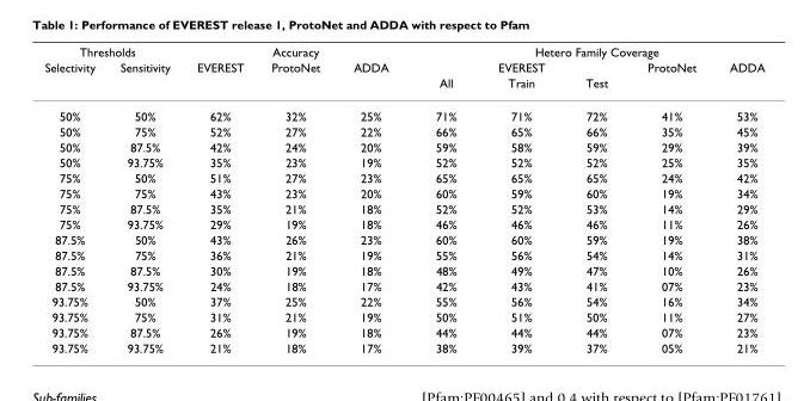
<table><thead><tr><td colspan="2">Thresholds</td><td colspan="3">Accuracy</td><td colspan="5">Hetero Family Coverage</td></tr><tr><td rowspan="2">Selectivity</td><td rowspan="2">Sensitivity</td><td rowspan="2">EVEREST</td><td rowspan="2">ProtoNet</td><td rowspan="2">ADDA</td><td colspan="3">EVEREST</td><td rowspan="2">ProtoNet</td><td rowspan="2">ADDA</td></tr><tr><td>All</td><td>Train</td><td>Test</td></tr></thead><tbody><tr><td>50%</td><td>50%</td><td>62%</td><td>32%</td><td>25%</td><td>71%</td><td>71%</td><td>72%</td><td>41%</td><td>53%</td></tr><tr><td>50%</td><td>75%</td><td>52%</td><td>27%</td><td>22%</td><td>66%</td><td>65%</td><td>66%</td><td>35%</td><td>45%</td></tr><tr><td>50%</td><td>87.5%</td><td>42%</td><td>24%</td><td>20%</td><td>59%</td><td>58%</td><td>59%</td><td>29%</td><td>39%</td></tr><tr><td>50%</td><td>93.75%</td><td>35%</td><td>23%</td><td>19%</td><td>52%</td><td>52%</td><td>52%</td><td>25%</td><td>35%</td></tr><tr><td>75%</td><td>50%</td><td>51%</td><td>27%</td><td>23%</td><td>65%</td><td>65%</td><td>65%</td><td>24%</td><td>42%</td></tr><tr><td>75%</td><td>75%</td><td>43%</td><td>23%</td><td>20%</td><td>60%</td><td>59%</td><td>60%</td><td>19%</td><td>34%</td></tr><tr><td>75%</td><td>87.5%</td><td>35%</td><td>21%</td><td>18%</td><td>52%</td><td>52%</td><td>53%</td><td>14%</td><td>29%</td></tr><tr><td>75%</td><td>93.75%</td><td>29%</td><td>19%</td><td>18%</td><td>46%</td><td>46%</td><td>46%</td><td>11%</td><td>26%</td></tr><tr><td>87.5%</td><td>50%</td><td>43%</td><td>26%</td><td>23%</td><td>60%</td><td>60%</td><td>59%</td><td>19%</td><td>38%</td></tr><tr><td>87.5%</td><td>75%</td><td>36%</td><td>21%</td><td>19%</td><td>55%</td><td>56%</td><td>54%</td><td>14%</td><td>31%</td></tr><tr><td>87.5%</td><td>87.5%</td><td>30%</td><td>19%</td><td>18%</td><td>48%</td><td>49%</td><td>47%</td><td>10%</td><td>26%</td></tr><tr><td>87.5%</td><td>93.75%</td><td>24%</td><td>18%</td><td>17%</td><td>42%</td><td>43%</td><td>41%</td><td>07%</td><td>23%</td></tr><tr><td>93.75%</td><td>50%</td><td>37%</td><td>25%</td><td>22%</td><td>55%</td><td>56%</td><td>54%</td><td>16%</td><td>34%</td></tr><tr><td>93.75%</td><td>75%</td><td>31%</td><td>21%</td><td>19%</td><td>50%</td><td>51%</td><td>50%</td><td>11%</td><td>27%</td></tr><tr><td>93.75%</td><td>87.5%</td><td>26%</td><td>19%</td><td>18%</td><td>44%</td><td>44%</td><td>44%</td><td>07%</td><td>23%</td></tr><tr><td>93.75%</td><td>93.75%</td><td>21%</td><td>18%</td><td>17%</td><td>38%</td><td>39%</td><td>37%</td><td>05%</td><td>21%</td></tr></tbody></table>